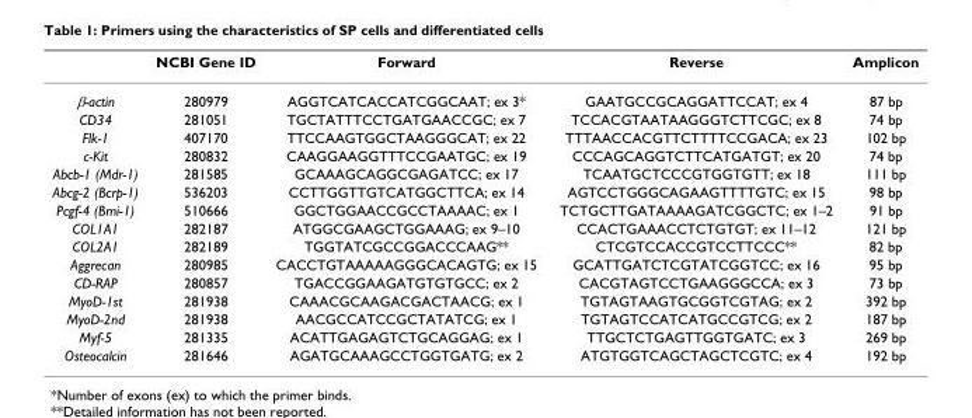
<table><thead><tr><td></td><td>NCBI Gene ID</td><td>Forward</td><td>Reverse</td><td>Amplicon</td></tr></thead><tbody><tr><td>β-actin</td><td>280979</td><td>AGGTCATCACCATCGGCAAT; ex 3*</td><td>GAATGCCGCAGGATTCCAT; ex 4</td><td>87 bp</td></tr><tr><td>CD34</td><td>281051</td><td>TGCTATTTCCTGATGAACCGC; ex 7</td><td>TCCACGTAATAAGGGTCTTCGC; ex 8</td><td>74 bp</td></tr><tr><td>Flk-1</td><td>407170</td><td>TTCCAAGTGGCTAAGGGCAT; ex 22</td><td>TTTAACCACGTTCTTTTCCGACA; ex 23</td><td>102 bp</td></tr><tr><td>c-Kit</td><td>280832</td><td>CAAGGAAGGTTTCCGAATGC; ex 19</td><td>CCCAGCAGGTCTTCATGATGT; ex 20</td><td>74 bp</td></tr><tr><td>Abcb-1 (Mdr-1)</td><td>281585</td><td>GCAAAGCAGGCGAGATCC; ex 17</td><td>TCAATGCTCCCGTGGTGTT; ex 18</td><td>111 bp</td></tr><tr><td>Abcg-2 (Bcrp-1)</td><td>536203</td><td>CCTTGGTTGTCATGGCTTCA; ex 14</td><td>AGTCCTGGGCAGAAGTTTTGTC; ex 15</td><td>98 bp</td></tr><tr><td>Pcgf-4 (Bmi-1)</td><td>510666</td><td>GGCTGGAACCGCCTAAAAC; ex 1</td><td>TCTGCTTGATAAAAGATCGGCTC; ex 1–2</td><td>91 bp</td></tr><tr><td>COL1A1</td><td>282187</td><td>ATGGCGAAGCTGGAAAG; ex 9–10</td><td>CCACTGAAACCTCTGTGT; ex 11–12</td><td>121 bp</td></tr><tr><td>COL2A1</td><td>282189</td><td>TGGTATCGCCGGACCCAAG**</td><td>CTCGTCCACCGTCCTTCCC**</td><td>82 bp</td></tr><tr><td>Aggrecan</td><td>280985</td><td>CACCTGTAAAAAGGGCACAGTG; ex 15</td><td>GCATTGATCTCGTATCGGTCC; ex 16</td><td>95 bp</td></tr><tr><td>CD-RAP</td><td>280857</td><td>TGACCGGAAGATGTGTGCC; ex 2</td><td>CACGTAGTCCTGAAGGGCCA; ex 3</td><td>73 bp</td></tr><tr><td>MyoD-1st</td><td>281938</td><td>CAAACGCAAGACGACTAACG; ex 1</td><td>TGTAGTAAGTGCGGTCGTAG; ex 2</td><td>392 bp</td></tr><tr><td>MyoD-2nd</td><td>281938</td><td>AACGCCATCCGCTATATCG; ex 1</td><td>TGTAGTCCATCATGCCGTCG; ex 2</td><td>187 bp</td></tr><tr><td>Myf-5</td><td>281335</td><td>ACATTGAGAGTCTGCAGGAG; ex 1</td><td>TTGCTCTGAGTTGGTGATC; ex 3</td><td>269 bp</td></tr><tr><td>Osteocalcin</td><td>281646</td><td>AGATGCAAAGCCTGGTGATG; ex 2</td><td>ATGTGGTCAGCTAGCTCGTC; ex 4</td><td>192 bp</td></tr></tbody></table>